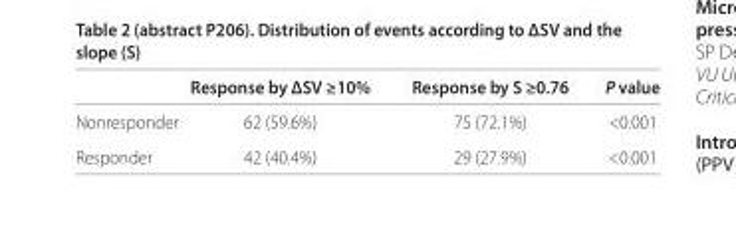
<table><thead><tr><td></td><td>Response by ΔSV ≥10%</td><td>Response by S ≥0.76</td><td>P value</td></tr></thead><tbody><tr><td>Nonresponder</td><td>62 (59.6%)</td><td>75 (72.1%)</td><td>&lt;0.001</td></tr><tr><td>Responder</td><td>42 (40.4%)</td><td>29 (27.9%)</td><td>&lt;0.001</td></tr></tbody></table>